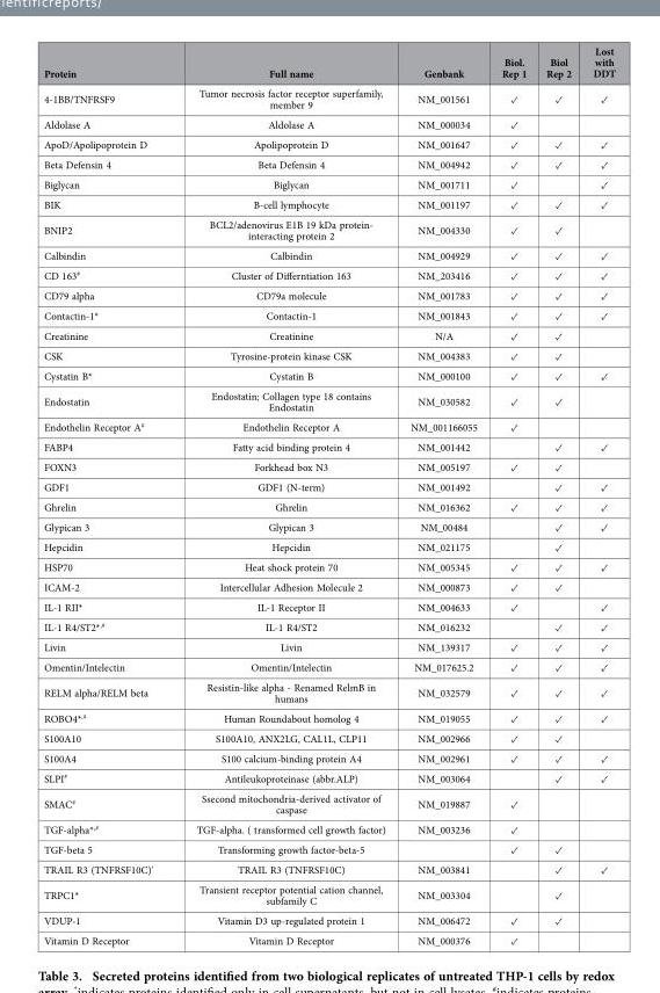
<table><thead><tr><td>Protein</td><td>Full name</td><td>Genbank</td><td>Biol. Rep 1</td><td>Biol Rep 2</td><td>Lost with DDT</td></tr></thead><tbody><tr><td>4-1BB/TNFRSF9</td><td>Tumor necrosis factor receptor superfamily, member 9</td><td>NM_001561</td><td>✓</td><td>✓</td><td>✓</td></tr><tr><td>Aldolase A</td><td>Aldolase A</td><td>NM_000034</td><td>✓</td><td></td><td></td></tr><tr><td>ApoD/Apolipoprotein D</td><td>Apolipoprotein D</td><td>NM_001647</td><td>✓</td><td>✓</td><td>✓</td></tr><tr><td>Beta Defensin 4</td><td>Beta Defensin 4</td><td>NM_004942</td><td>✓</td><td>✓</td><td>✓</td></tr><tr><td>Biglycan</td><td>Biglycan</td><td>NM_001711</td><td>✓</td><td></td><td>✓</td></tr><tr><td>BIK</td><td>B-cell lymphocyte</td><td>NM_001197</td><td>✓</td><td>✓</td><td>✓</td></tr><tr><td>BNIP2</td><td>BCL2/adenovirus E1B 19 kDa protein- interacting protein 2</td><td>NM_004330</td><td>✓</td><td>✓</td><td></td></tr><tr><td>Calbindin</td><td>Calbindin</td><td>NM_004929</td><td>✓</td><td>✓</td><td>✓</td></tr><tr><td>CD 163#</td><td>Cluster of Differntiation 163</td><td>NM_203416</td><td>✓</td><td>✓</td><td>✓</td></tr><tr><td>CD79 alpha</td><td>CD79a molecule</td><td>NM_001783</td><td>✓</td><td>✓</td><td>✓</td></tr><tr><td>Contactin-1*</td><td>Contactin-1</td><td>NM_001843</td><td>✓</td><td>✓</td><td>✓</td></tr><tr><td>Creatinine</td><td>Creatinine</td><td>N/A</td><td>✓</td><td>✓</td><td></td></tr><tr><td>CSK</td><td>Tyrosine-protein kinase CSK</td><td>NM_004383</td><td>✓</td><td>✓</td><td></td></tr><tr><td>Cystatin B*</td><td>Cystatin B</td><td>NM_000100</td><td>✓</td><td>✓</td><td>✓</td></tr><tr><td>Endostatin</td><td>Endostatin; Collagen type 18 contains Endostatin</td><td>NM_030582</td><td>✓</td><td>✓</td><td></td></tr><tr><td>Endothelin Receptor A#</td><td>Endothelin Receptor A</td><td>NM_001166055</td><td>✓</td><td></td><td></td></tr><tr><td>FABP4</td><td>Fatty acid binding protein 4</td><td>NM_001442</td><td></td><td>✓</td><td>✓</td></tr><tr><td>FOXN3</td><td>Forkhead box N3</td><td>NM_005197</td><td>✓</td><td>✓</td><td></td></tr><tr><td>GDF1</td><td>GDF1 (N-term)</td><td>NM_001492</td><td></td><td>✓</td><td>✓</td></tr><tr><td>Ghrelin</td><td>Ghrelin</td><td>NM_016362</td><td>✓</td><td>✓</td><td>✓</td></tr><tr><td>Glypican 3</td><td>Glypican 3</td><td>NM_00484</td><td></td><td>✓</td><td>✓</td></tr><tr><td>Hepcidin</td><td>Hepcidin</td><td>NM_021175</td><td></td><td>✓</td><td></td></tr><tr><td>HSP70</td><td>Heat shock protein 70</td><td>NM_005345</td><td>✓</td><td>✓</td><td>✓</td></tr><tr><td>ICAM-2</td><td>Intercellular Adhesion Molecule 2</td><td>NM_000873</td><td>✓</td><td>✓</td><td></td></tr><tr><td>IL-1 RII*</td><td>IL-1 Receptor II</td><td>NM_004633</td><td>✓</td><td></td><td>✓</td></tr><tr><td>IL-1 R4/ST2*,#</td><td>IL-1 R4/ST2</td><td>NM_016232</td><td></td><td>✓</td><td>✓</td></tr><tr><td>Livin</td><td>Livin</td><td>NM_139317</td><td>✓</td><td>✓</td><td>✓</td></tr><tr><td>Omentin/Intelectin</td><td>Omentin/Intelectin</td><td>NM_017625.2</td><td>✓</td><td>✓</td><td>✓</td></tr><tr><td>RELM alpha/RELM beta</td><td>Resistin-like alpha - Renamed RelmB in humans</td><td>NM_032579</td><td>✓</td><td>✓</td><td>✓</td></tr><tr><td>ROBO4*,#</td><td>Human Roundabout homolog 4</td><td>NM_019055</td><td>✓</td><td>✓</td><td>✓</td></tr><tr><td>S100A10</td><td>S100A10, ANX2LG, CAL1L, CLP11</td><td>NM_002966</td><td>✓</td><td>✓</td><td></td></tr><tr><td>S100A4</td><td>S100 calcium-binding protein A4</td><td>NM_002961</td><td>✓</td><td>✓</td><td>✓</td></tr><tr><td>SLPI#</td><td>Antileukoproteinase (abbr.ALP)</td><td>NM_003064</td><td></td><td>✓</td><td>✓</td></tr><tr><td>SMAC#</td><td>Ssecond mitochondria-derived activator of caspase</td><td>NM_019887</td><td>✓</td><td></td><td></td></tr><tr><td>TGF-alpha*,#</td><td>TGF-alpha. ( transformed cell growth factor)</td><td>NM_003236</td><td>✓</td><td></td><td></td></tr><tr><td>TGF-beta 5</td><td>Transforming growth factor-beta-5</td><td></td><td>✓</td><td>✓</td><td></td></tr><tr><td>TRAIL R3 (TNFRSF10C)&#x27;</td><td>TRAIL R3 (TNFRSF10C)</td><td>NM_003841</td><td></td><td>✓</td><td>✓</td></tr><tr><td>TRPC1*</td><td>Transient receptor potential cation channel, subfamily C</td><td>NM_003304</td><td></td><td>✓</td><td></td></tr><tr><td>VDUP-1</td><td>Vitamin D3 up-regulated protein 1</td><td>NM_006472</td><td>✓</td><td>✓</td><td></td></tr><tr><td>Vitamin D Receptor</td><td>Vitamin D Receptor</td><td>NM_000376</td><td>✓</td><td></td><td></td></tr></tbody></table>